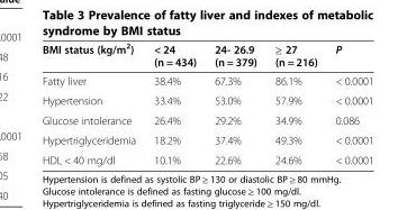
<table><thead><tr><td>BMI status (kg/m<sup>2</sup>)</td><td>&lt; 24 (n = 434)</td><td>24- 26.9 (n = 379)</td><td>≥ 27 (n = 216)</td><td>P</td></tr></thead><tbody><tr><td>Fatty liver</td><td>38.4%</td><td>67.3%</td><td>86.1%</td><td>&lt; 0.0001</td></tr><tr><td>Hypertension</td><td>33.4%</td><td>53.0%</td><td>57.9%</td><td>&lt; 0.0001</td></tr><tr><td>Glucose intolerance</td><td>26.4%</td><td>29.2%</td><td>34.9%</td><td>0.086</td></tr><tr><td>Hypertriglyceridemia</td><td>18.2%</td><td>37.4%</td><td>49.3%</td><td>&lt; 0.0001</td></tr><tr><td>HDL &lt; 40 mg/dl</td><td>10.1%</td><td>22.6%</td><td>24.6%</td><td>&lt; 0.0001</td></tr></tbody></table>